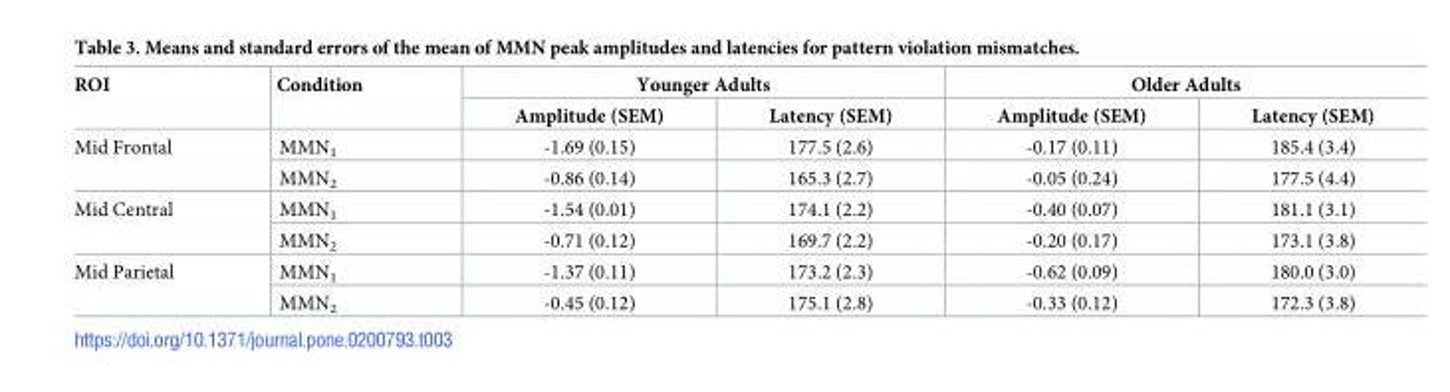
<table><thead><tr><td rowspan="2">ROI</td><td rowspan="2">Condition</td><td colspan="2">Younger Adults</td><td colspan="2">Older Adults</td></tr><tr><td>Amplitude (SEM)</td><td>Latency (SEM)</td><td>Amplitude (SEM)</td><td>Latency (SEM)</td></tr></thead><tbody><tr><td rowspan="2">Mid Frontal</td><td>MMN<sub>1</sub></td><td>-1.69 (0.15)</td><td>177.5 (2.6)</td><td>-0.17 (0.11)</td><td>185.4 (3.4)</td></tr><tr><td>MMN<sub>2</sub></td><td>-0.86 (0.14)</td><td>165.3 (2.7)</td><td>-0.05 (0.24)</td><td>177.5 (4.4)</td></tr><tr><td rowspan="2">Mid Central</td><td>MMN<sub>1</sub></td><td>-1.54 (0.01)</td><td>174.1 (2.2)</td><td>-0.40 (0.07)</td><td>181.1 (3.1)</td></tr><tr><td>MMN<sub>2</sub></td><td>-0.71 (0.12)</td><td>169.7 (2.2)</td><td>-0.20 (0.17)</td><td>173.1 (3.8)</td></tr><tr><td rowspan="2">Mid Parietal</td><td>MMN<sub>1</sub></td><td>-1.37 (0.11)</td><td>173.2 (2.3)</td><td>-0.62 (0.09)</td><td>180.0 (3.0)</td></tr><tr><td>MMN<sub>2</sub></td><td>-0.45 (0.12)</td><td>175.1 (2.8)</td><td>-0.33 (0.12)</td><td>172.3 (3.8)</td></tr></tbody></table>